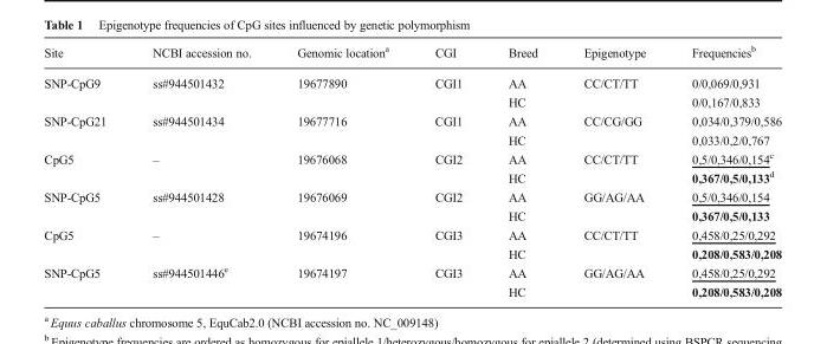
<table><thead><tr><td>Site</td><td>NCBI accession no.</td><td>Genomic location<sup>a</sup></td><td>CGI</td><td>Breed</td><td>Epigenotype</td><td>Frequencies<sup>b</sup></td></tr></thead><tbody><tr><td rowspan="2">SNP-CpG9</td><td rowspan="2">ss#944501432</td><td rowspan="2">19677890</td><td rowspan="2">CGI1</td><td>AA</td><td rowspan="2">CC/CT/TT</td><td>0/0,069/0,931</td></tr><tr><td>HC</td><td>0/0,167/0,833</td></tr><tr><td rowspan="2">SNP-CpG21</td><td rowspan="2">ss#944501434</td><td rowspan="2">19677716</td><td rowspan="2">CGI1</td><td>AA</td><td rowspan="2">CC/CG/GG</td><td>0,034/0,379/0,586</td></tr><tr><td>HC</td><td>0,033/0,2/0,767</td></tr><tr><td rowspan="2">CpG5</td><td rowspan="2">–</td><td rowspan="2">19676068</td><td rowspan="2">CGI2</td><td>AA</td><td rowspan="2">CC/CT/TT</td><td>0,5/0,346/0,154<sup>c</sup></td></tr><tr><td>HC</td><td>0,367/0,5/0,133<sup>d</sup></td></tr><tr><td rowspan="2">SNP-CpG5</td><td rowspan="2">ss#944501428</td><td rowspan="2">19676069</td><td rowspan="2">CGI2</td><td>AA</td><td rowspan="2">GG/AG/AA</td><td>0,5/0,346/0,154</td></tr><tr><td>HC</td><td>0,367/0,5/0,133</td></tr><tr><td rowspan="2">CpG5</td><td rowspan="2">–</td><td rowspan="2">19674196</td><td rowspan="2">CGI3</td><td>AA</td><td rowspan="2">CC/CT/TT</td><td>0,458/0,25/0,292</td></tr><tr><td>HC</td><td>0,208/0,583/0,208</td></tr><tr><td rowspan="2">SNP-CpG5</td><td rowspan="2">ss#944501446<sup>e</sup></td><td rowspan="2">19674197</td><td rowspan="2">CGI3</td><td>AA</td><td rowspan="2">GG/AG/AA</td><td>0,458/0,25/0,292</td></tr><tr><td>HC</td><td>0,208/0,583/0,208</td></tr></tbody></table>